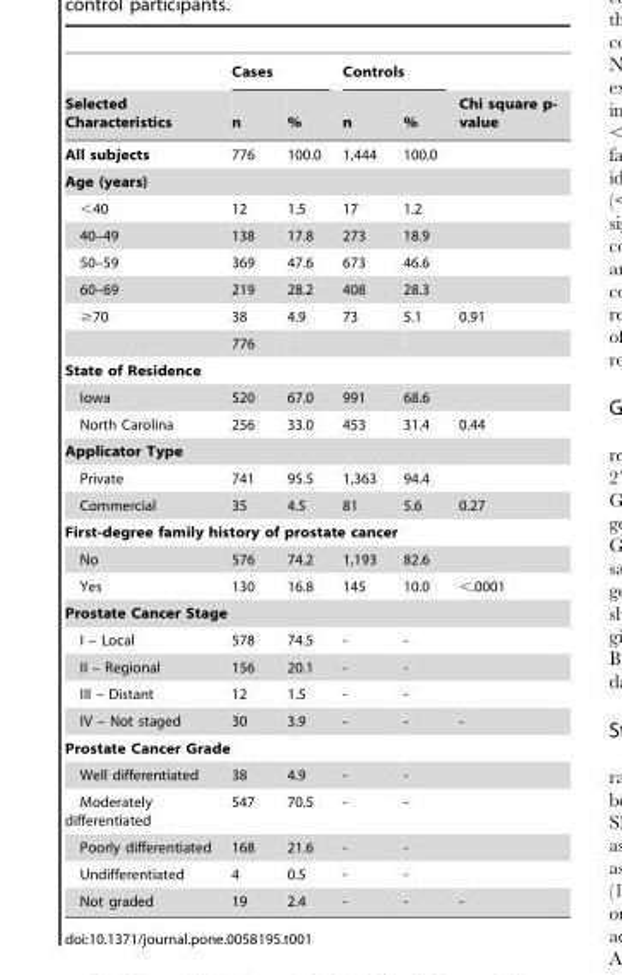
<table><thead><tr><td rowspan="2">Selected Characteristics</td><td colspan="2">Cases</td><td colspan="2">Controls</td><td rowspan="2">Chi square p- value</td></tr><tr><td>n</td><td>%</td><td>n</td><td>%</td></tr></thead><tbody><tr><td>All subjects</td><td>776</td><td>100.0</td><td>1,444</td><td>100.0</td><td></td></tr><tr><td colspan="6">Age (years)</td></tr><tr><td>&lt;40</td><td>12</td><td>1.5</td><td>17</td><td>1.2</td><td></td></tr><tr><td>40–49</td><td>138</td><td>17.8</td><td>273</td><td>18.9</td><td></td></tr><tr><td>50–59</td><td>369</td><td>47.6</td><td>673</td><td>46.6</td><td></td></tr><tr><td>60–69</td><td>219</td><td>28.2</td><td>408</td><td>28.3</td><td></td></tr><tr><td rowspan="2">≥70</td><td>38</td><td>4.9</td><td>73</td><td>5.1</td><td>0.91</td></tr><tr><td>776</td><td></td><td></td><td></td><td></td></tr><tr><td colspan="6">State of Residence</td></tr><tr><td>Iowa</td><td>520</td><td>67.0</td><td>991</td><td>68.6</td><td></td></tr><tr><td>North Carolina</td><td>256</td><td>33.0</td><td>453</td><td>31.4</td><td>0.44</td></tr><tr><td colspan="6">Applicator Type</td></tr><tr><td>Private</td><td>741</td><td>95.5</td><td>1,363</td><td>94.4</td><td></td></tr><tr><td>Commercial</td><td>35</td><td>4.5</td><td>81</td><td>5.6</td><td>0.27</td></tr><tr><td colspan="6">First-degree family history of prostate cancer</td></tr><tr><td>No</td><td>576</td><td>74.2</td><td>1,193</td><td>82.6</td><td></td></tr><tr><td>Yes</td><td>130</td><td>16.8</td><td>145</td><td>10.0</td><td>&lt;.0001</td></tr><tr><td colspan="6">Prostate Cancer Stage</td></tr><tr><td>I – Local</td><td>578</td><td>74.5</td><td>-</td><td>-</td><td></td></tr><tr><td>II – Regional</td><td>156</td><td>20.1</td><td>-</td><td>-</td><td></td></tr><tr><td>III – Distant</td><td>12</td><td>1.5</td><td>-</td><td>-</td><td></td></tr><tr><td>IV – Not staged</td><td>30</td><td>3.9</td><td>-</td><td>-</td><td>-</td></tr><tr><td colspan="6">Prostate Cancer Grade</td></tr><tr><td>Well differentiated</td><td>38</td><td>4.9</td><td>-</td><td>-</td><td></td></tr><tr><td>Moderately differentiated</td><td>547</td><td>70.5</td><td>-</td><td>-</td><td></td></tr><tr><td>Poorly differentiated</td><td>168</td><td>21.6</td><td>-</td><td>-</td><td></td></tr><tr><td>Undifferentiated</td><td>4</td><td>0.5</td><td>-</td><td>-</td><td></td></tr><tr><td>Not graded</td><td>19</td><td>2.4</td><td>-</td><td>-</td><td>-</td></tr></tbody></table>